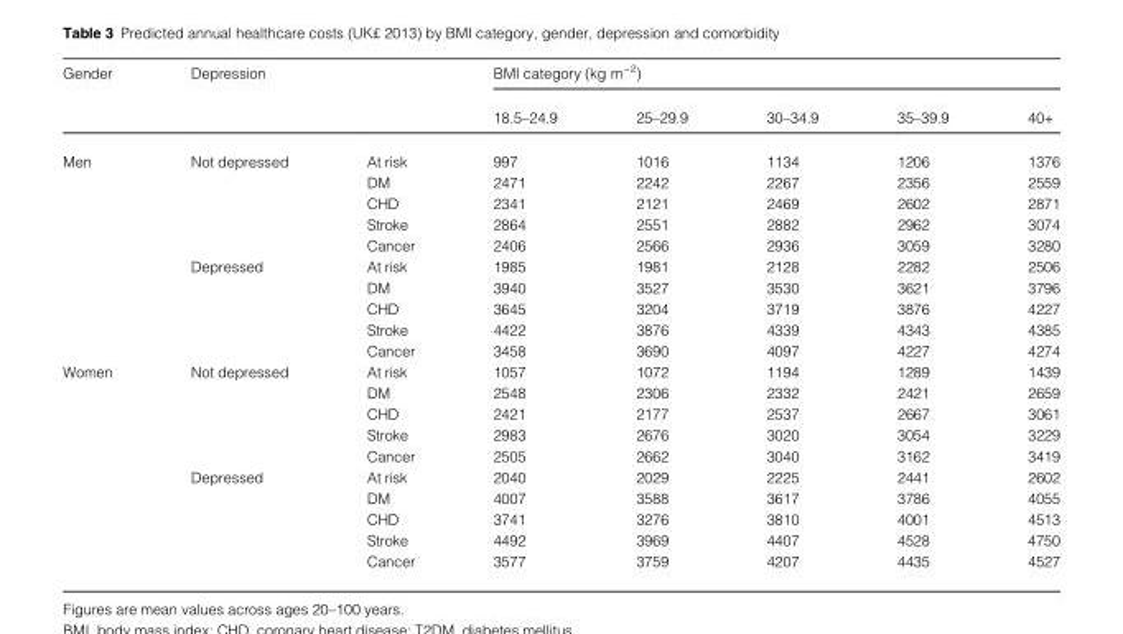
<table><thead><tr><td rowspan="2">Gender</td><td rowspan="2">Depression</td><td rowspan="2"></td><td colspan="5">BMI category (kg m<sup>−2</sup>)</td></tr><tr><td>18.5–24.9</td><td>25–29.9</td><td>30–34.9</td><td>35–39.9</td><td>40+</td></tr></thead><tbody><tr><td rowspan="10">Men</td><td rowspan="5">Not depressed</td><td>At risk</td><td>997</td><td>1016</td><td>1134</td><td>1206</td><td>1376</td></tr><tr><td>DM</td><td>2471</td><td>2242</td><td>2267</td><td>2356</td><td>2559</td></tr><tr><td>CHD</td><td>2341</td><td>2121</td><td>2469</td><td>2602</td><td>2871</td></tr><tr><td>Stroke</td><td>2864</td><td>2551</td><td>2882</td><td>2962</td><td>3074</td></tr><tr><td>Cancer</td><td>2406</td><td>2566</td><td>2936</td><td>3059</td><td>3280</td></tr><tr><td rowspan="5">Depressed</td><td>At risk</td><td>1985</td><td>1981</td><td>2128</td><td>2282</td><td>2506</td></tr><tr><td>DM</td><td>3940</td><td>3527</td><td>3530</td><td>3621</td><td>3796</td></tr><tr><td>CHD</td><td>3645</td><td>3204</td><td>3719</td><td>3876</td><td>4227</td></tr><tr><td>Stroke</td><td>4422</td><td>3876</td><td>4339</td><td>4343</td><td>4385</td></tr><tr><td>Cancer</td><td>3458</td><td>3690</td><td>4097</td><td>4227</td><td>4274</td></tr><tr><td rowspan="10">Women</td><td rowspan="5">Not depressed</td><td>At risk</td><td>1057</td><td>1072</td><td>1194</td><td>1289</td><td>1439</td></tr><tr><td>DM</td><td>2548</td><td>2306</td><td>2332</td><td>2421</td><td>2659</td></tr><tr><td>CHD</td><td>2421</td><td>2177</td><td>2537</td><td>2667</td><td>3061</td></tr><tr><td>Stroke</td><td>2983</td><td>2676</td><td>3020</td><td>3054</td><td>3229</td></tr><tr><td>Cancer</td><td>2505</td><td>2662</td><td>3040</td><td>3162</td><td>3419</td></tr><tr><td rowspan="5">Depressed</td><td>At risk</td><td>2040</td><td>2029</td><td>2225</td><td>2441</td><td>2602</td></tr><tr><td>DM</td><td>4007</td><td>3588</td><td>3617</td><td>3786</td><td>4055</td></tr><tr><td>CHD</td><td>3741</td><td>3276</td><td>3810</td><td>4001</td><td>4513</td></tr><tr><td>Stroke</td><td>4492</td><td>3969</td><td>4407</td><td>4528</td><td>4750</td></tr><tr><td>Cancer</td><td>3577</td><td>3759</td><td>4207</td><td>4435</td><td>4527</td></tr></tbody></table>